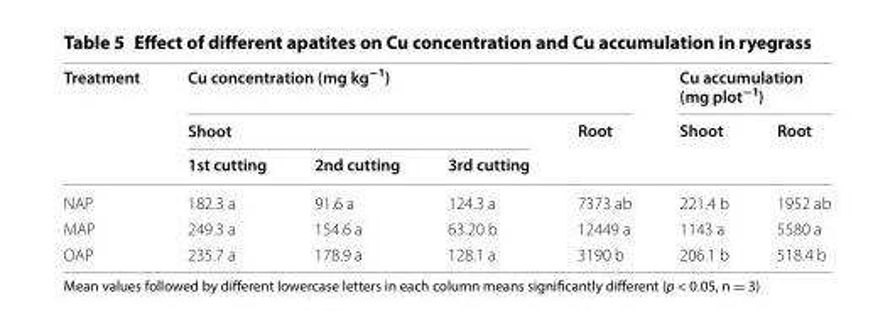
<table><thead><tr><td rowspan="3">Treatment</td><td colspan="4">Cu concentration (mg kg<sup>−1</sup>)</td><td colspan="2">Cu accumulation (mg plot<sup>−1</sup>)</td></tr><tr><td colspan="3">Shoot</td><td rowspan="2">Root</td><td rowspan="2">Shoot</td><td rowspan="2">Root</td></tr><tr><td>1st cutting</td><td>2nd cutting</td><td>3rd cutting</td></tr></thead><tbody><tr><td>NAP</td><td>182.3 a</td><td>91.6 a</td><td>124.3 a</td><td>7373 ab</td><td>221.4 b</td><td>1952 ab</td></tr><tr><td>MAP</td><td>249.3 a</td><td>154.6 a</td><td>63.20 b</td><td>12449 a</td><td>1143 a</td><td>5580 a</td></tr><tr><td>OAP</td><td>235.7 a</td><td>178.9 a</td><td>128.1 a</td><td>3190 b</td><td>206.1 b</td><td>518.4 b</td></tr></tbody></table>